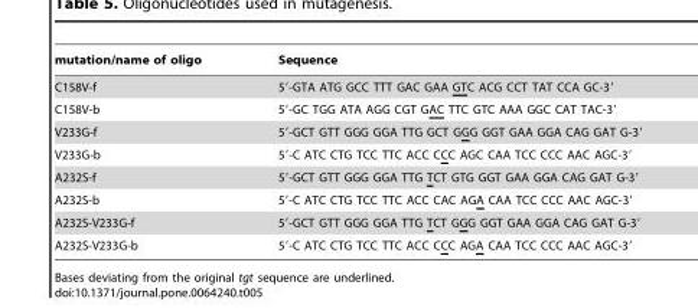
<table><thead><tr><td>mutation/name of oligo</td><td>Sequence</td></tr></thead><tbody><tr><td>C158V-f</td><td>5′-GTA ATG GCC TTT GAC GAA GTC ACG CCT TAT CCA GC-3′</td></tr><tr><td>C158V-b</td><td>5′-GC TGG ATA AGG CGT GAC TTC GTC AAA GGC CAT TAC-3′</td></tr><tr><td>V233G-f</td><td>5′-GCT GTT GGG GGA TTG GCT GGG GGT GAA GGA CAG GAT G-3′</td></tr><tr><td>V233G-b</td><td>5′-C ATC CTG TCC TTC ACC CCC AGC CAA TCC CCC AAC AGC-3′</td></tr><tr><td>A232S-f</td><td>5′-GCT GTT GGG GGA TTG TCT GTG GGT GAA GGA CAG GAT G-3′</td></tr><tr><td>A232S-b</td><td>5′-C ATC CTG TCC TTC ACC CAC AGA CAA TCC CCC AAC AGC-3′</td></tr><tr><td>A232S-V233G-f</td><td>5′-GCT GTT GGG GGA TTG TCT GGG GGT GAA GGA CAG GAT G-3′</td></tr><tr><td>A232S-V233G-b</td><td>5′-C ATC CTG TCC TTC ACC CCC AGA CAA TCC CCC AAC AGC-3′</td></tr></tbody></table>